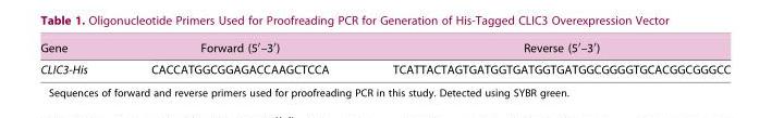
<table><thead><tr><td>Gene</td><td>Forward (5′–3′)</td><td>Reverse (5′–3′)</td></tr></thead><tbody><tr><td>CLIC3-His</td><td>CACCATGGCGGAGACCAAGCTCCA</td><td>TCATTACTAGTGATGGTGATGGTGATGGCGGGGTGCACGGCGGGCC</td></tr></tbody></table>